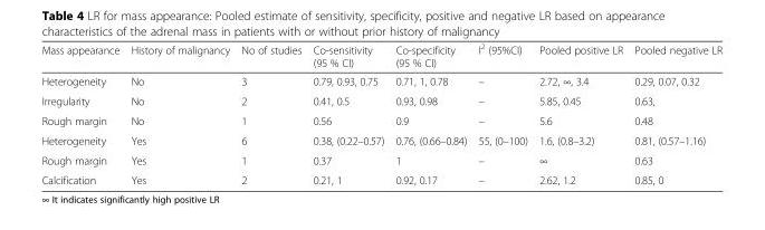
<table><thead><tr><td>Mass appearance</td><td>History of malignancy</td><td>No of studies</td><td>Co-sensitivity (95 % CI)</td><td>Co-specificity (95 % CI)</td><td>I<sup>2</sup> (95%CI)</td><td>Pooled positive LR</td><td>Pooled negative LR</td></tr></thead><tbody><tr><td>Heterogeneity</td><td>No</td><td>3</td><td>0.79, 0.93, 0.75</td><td>0.71, 1, 0.78</td><td>–</td><td>2.72, ∞, 3.4</td><td>0.29, 0.07, 0.32</td></tr><tr><td>Irregularity</td><td>No</td><td>2</td><td>0.41, 0.5</td><td>0.93, 0.98</td><td>–</td><td>5.85, 0.45</td><td>0.63,</td></tr><tr><td>Rough margin</td><td>No</td><td>1</td><td>0.56</td><td>0.9</td><td>–</td><td>5.6</td><td>0.48</td></tr><tr><td>Heterogeneity</td><td>Yes</td><td>6</td><td>0.38, (0.22–0.57)</td><td>0.76, (0.66–0.84)</td><td>55, (0–100)</td><td>1.6, (0.8–3.2)</td><td>0.81, (0.57–1.16)</td></tr><tr><td>Rough margin</td><td>Yes</td><td>1</td><td>0.37</td><td>1</td><td>–</td><td>∞</td><td>0.63</td></tr><tr><td>Calcification</td><td>Yes</td><td>2</td><td>0.21, 1</td><td>0.92, 0.17</td><td>–</td><td>2.62, 1.2</td><td>0.85, 0</td></tr></tbody></table>